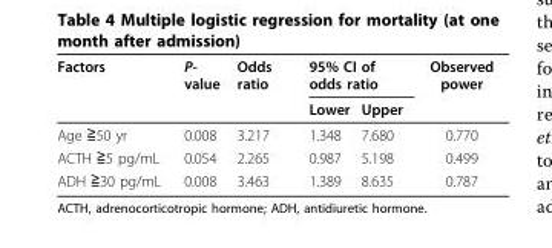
<table><thead><tr><td rowspan="2">Factors</td><td rowspan="2">P- value</td><td rowspan="2">Odds ratio</td><td colspan="2">95% CI of odds ratio</td><td rowspan="2">Observed power</td></tr><tr><td>Lower</td><td>Upper</td></tr></thead><tbody><tr><td>Age ≧50 yr</td><td>0.008</td><td>3.217</td><td>1.348</td><td>7.680</td><td>0.770</td></tr><tr><td>ACTH ≧5 pg/mL</td><td>0.054</td><td>2.265</td><td>0.987</td><td>5.198</td><td>0.499</td></tr><tr><td>ADH ≧30 pg/mL</td><td>0.008</td><td>3.463</td><td>1.389</td><td>8.635</td><td>0.787</td></tr></tbody></table>